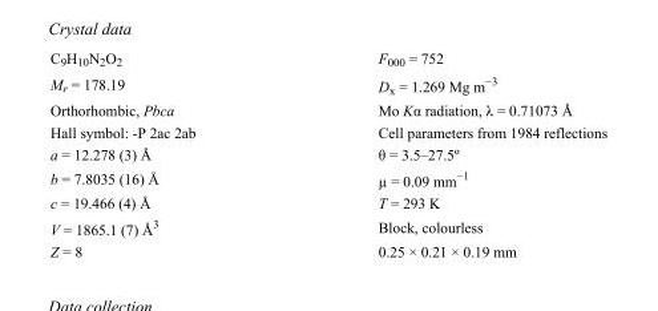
<table><tbody><tr><td>C<sub>9</sub>H<sub>10</sub>N<sub>2</sub>O<sub>2</sub></td><td>F000 = 752</td></tr><tr><td>M<sub>r</sub> = 178.19</td><td>D<sub>x</sub> = 1.269 Mg m<sup>−3</sup></td></tr><tr><td>Orthorhombic, Pbca</td><td>Mo Kα radiation, λ = 0.71073 Å</td></tr><tr><td>Hall symbol: -P 2ac 2ab</td><td>Cell parameters from 1984 reflections</td></tr><tr><td>a = 12.278 (3) Å</td><td>θ = 3.5–27.5º</td></tr><tr><td>b = 7.8035 (16) Å</td><td>µ = 0.09 mm<sup>−1</sup></td></tr><tr><td>c = 19.466 (4) Å</td><td>T = 293 K</td></tr><tr><td>V = 1865.1 (7) Å<sup>3</sup></td><td>Block, colourless</td></tr><tr><td>Z = 8</td><td>0.25 × 0.21 × 0.19 mm</td></tr></tbody></table>